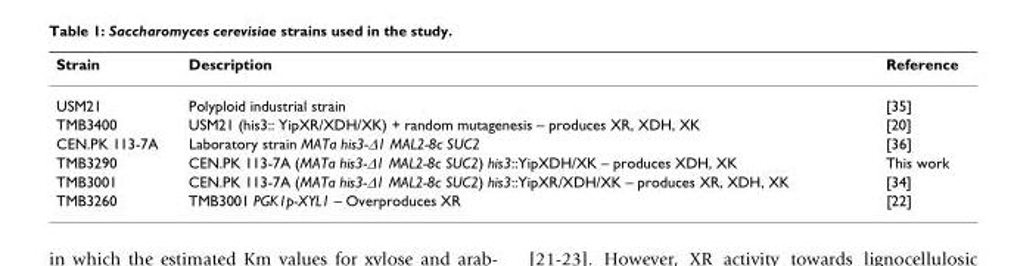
<table><thead><tr><td>Strain</td><td>Description</td><td>Reference</td></tr></thead><tbody><tr><td>USM21</td><td>Polyploid industrial strain</td><td>[35]</td></tr><tr><td>TMB3400</td><td>USM21 (his3:: YipXR/XDH/XK) + random mutagenesis – produces XR, XDH, XK</td><td>[20]</td></tr><tr><td>CEN.PK 113-7A</td><td>Laboratory strain MATa his3-Δ1 MAL2-8c SUC2</td><td>[36]</td></tr><tr><td>TMB3290</td><td>CEN.PK 113-7A (MATa his3-Δ1 MAL2-8c SUC2) his3::YipXDH/XK – produces XDH, XK</td><td>This work</td></tr><tr><td>TMB3001</td><td>CEN.PK 113-7A (MATa his3-Δ1 MAL2-8c SUC2) his3::YipXR/XDH/XK – produces XR, XDH, XK</td><td>[34]</td></tr><tr><td>TMB3260</td><td>TMB3001 PGK1p-XYL1 – Overproduces XR</td><td>[22]</td></tr></tbody></table>